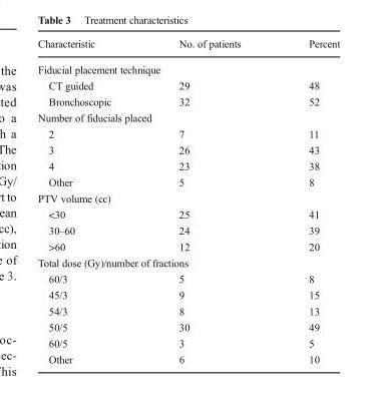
<table><thead><tr><td>Characteristic</td><td>No. of patients</td><td>Percent</td></tr></thead><tbody><tr><td colspan="3">Fiducial placement technique</td></tr><tr><td>CT guided</td><td>29</td><td>48</td></tr><tr><td>Bronchoscopic</td><td>32</td><td>52</td></tr><tr><td colspan="3">Number of fiducials placed</td></tr><tr><td>2</td><td>7</td><td>11</td></tr><tr><td>3</td><td>26</td><td>43</td></tr><tr><td>4</td><td>23</td><td>38</td></tr><tr><td>Other</td><td>5</td><td>8</td></tr><tr><td colspan="3">PTV volume (cc)</td></tr><tr><td>&lt;30</td><td>25</td><td>41</td></tr><tr><td>30–60</td><td>24</td><td>39</td></tr><tr><td>&gt;60</td><td>12</td><td>20</td></tr><tr><td colspan="3">Total dose (Gy)/number of fractions</td></tr><tr><td>60/3</td><td>5</td><td>8</td></tr><tr><td>45/3</td><td>9</td><td>15</td></tr><tr><td>54/3</td><td>8</td><td>13</td></tr><tr><td>50/5</td><td>30</td><td>49</td></tr><tr><td>60/5</td><td>3</td><td>5</td></tr><tr><td>Other</td><td>6</td><td>10</td></tr></tbody></table>